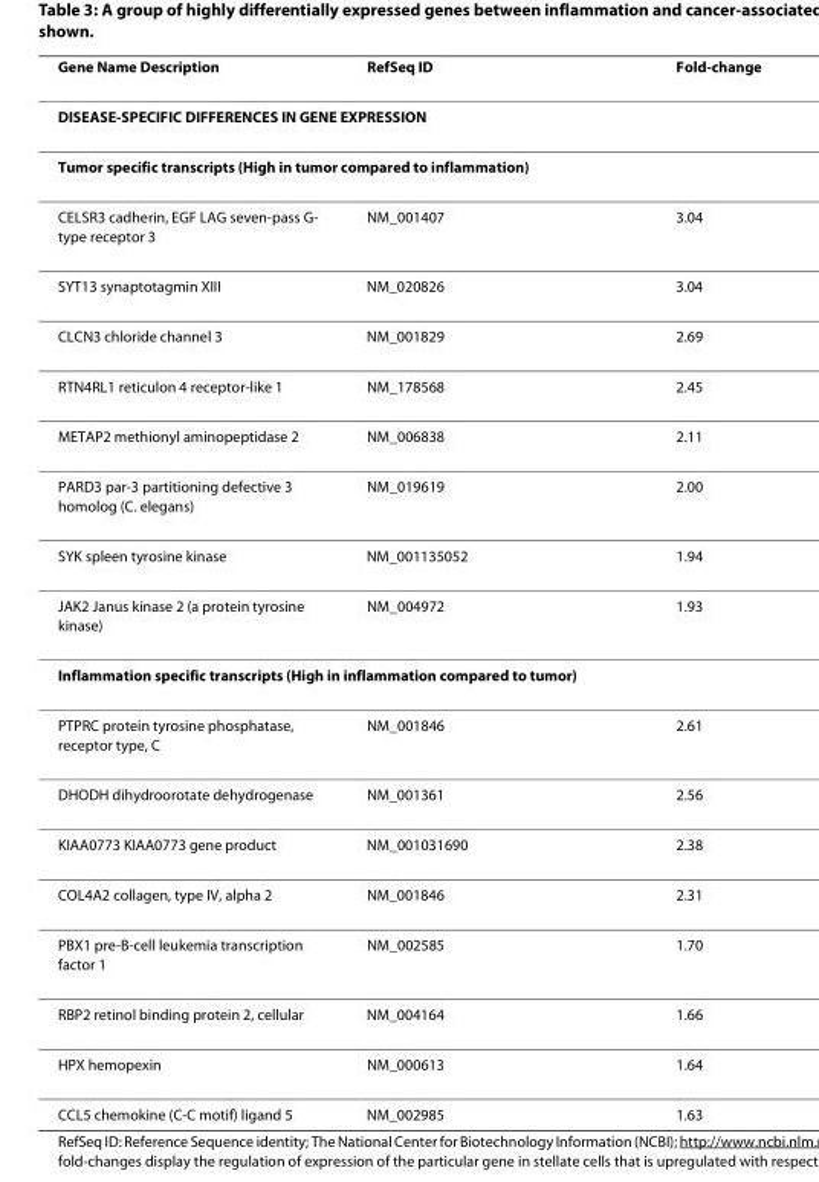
<table><thead><tr><td>Gene Name Description</td><td>RefSeq ID</td><td>Fold-change</td></tr></thead><tbody><tr><td colspan="3">DISEASE-SPECIFIC DIFFERENCES IN GENE EXPRESSION</td></tr><tr><td colspan="3">Tumor specific transcripts (High in tumor compared to inflammation)</td></tr><tr><td>CELSR3 cadherin, EGF LAG seven-pass G- type receptor 3</td><td>NM_001407</td><td>3.04</td></tr><tr><td>SYT13 synaptotagmin XIII</td><td>NM_020826</td><td>3.04</td></tr><tr><td>CLCN3 chloride channel 3</td><td>NM_001829</td><td>2.69</td></tr><tr><td>RTN4RL1 reticulon 4 receptor-like 1</td><td>NM_178568</td><td>2.45</td></tr><tr><td>METAP2 methionyl aminopeptidase 2</td><td>NM_006838</td><td>2.11</td></tr><tr><td>PARD3 par-3 partitioning defective 3 homolog (C. elegans)</td><td>NM_019619</td><td>2.00</td></tr><tr><td>SYK spleen tyrosine kinase</td><td>NM_001135052</td><td>1.94</td></tr><tr><td>JAK2 Janus kinase 2 (a protein tyrosine kinase)</td><td>NM_004972</td><td>1.93</td></tr><tr><td colspan="3">Inflammation specific transcripts (High in inflammation compared to tumor)</td></tr><tr><td>PTPRC protein tyrosine phosphatase, receptor type, C</td><td>NM_001846</td><td>2.61</td></tr><tr><td>DHODH dihydroorotate dehydrogenase</td><td>NM_001361</td><td>2.56</td></tr><tr><td>KIAA0773 KIAA0773 gene product</td><td>NM_001031690</td><td>2.38</td></tr><tr><td>COL4A2 collagen, type IV, alpha 2</td><td>NM_001846</td><td>2.31</td></tr><tr><td>PBX1 pre-B-cell leukemia transcription factor 1</td><td>NM_002585</td><td>1.70</td></tr><tr><td>RBP2 retinol binding protein 2, cellular</td><td>NM_004164</td><td>1.66</td></tr><tr><td>HPX hemopexin</td><td>NM_000613</td><td>1.64</td></tr><tr><td>CCL5 chemokine (C-C motif) ligand 5</td><td>NM_002985</td><td>1.63</td></tr></tbody></table>